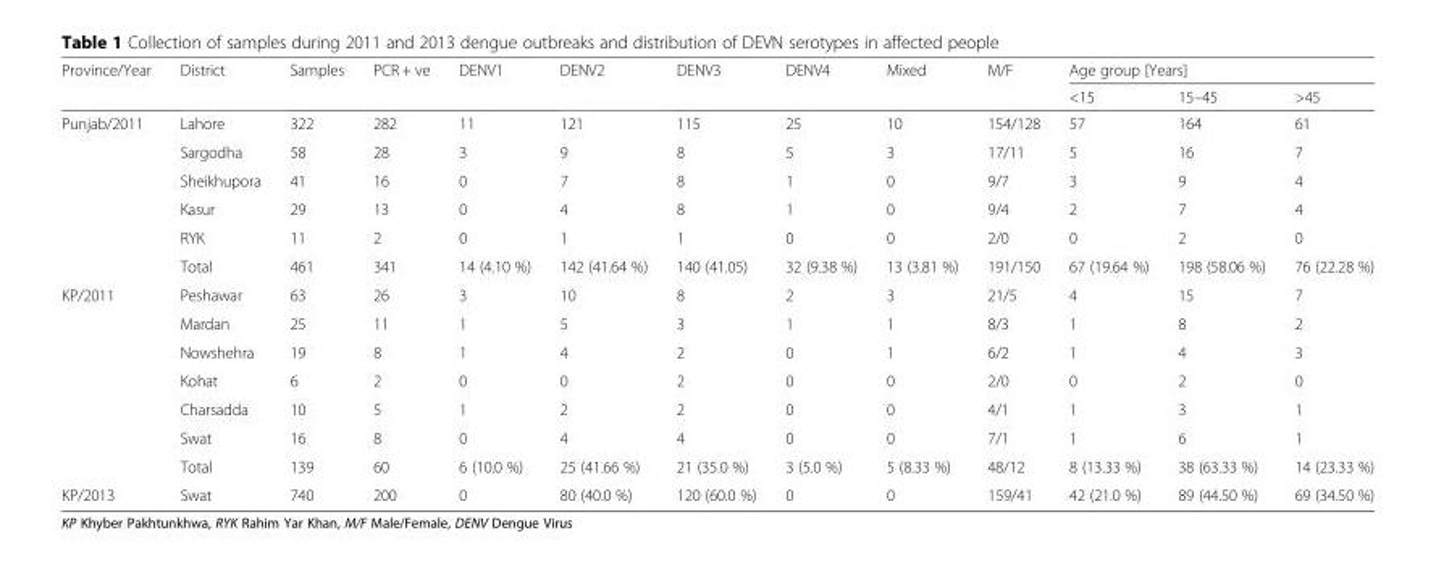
<table><thead><tr><td rowspan="2">Province/Year</td><td rowspan="2">District</td><td rowspan="2">Samples</td><td rowspan="2">PCR + ve</td><td rowspan="2">DENV1</td><td rowspan="2">DENV2</td><td rowspan="2">DENV3</td><td rowspan="2">DENV4</td><td rowspan="2">Mixed</td><td rowspan="2">M/F</td><td colspan="3">Age group [Years]</td></tr><tr><td>&lt;15</td><td>15–45</td><td>&gt;45</td></tr></thead><tbody><tr><td rowspan="6">Punjab/2011</td><td>Lahore</td><td>322</td><td>282</td><td>11</td><td>121</td><td>115</td><td>25</td><td>10</td><td>154/128</td><td>57</td><td>164</td><td>61</td></tr><tr><td>Sargodha</td><td>58</td><td>28</td><td>3</td><td>9</td><td>8</td><td>5</td><td>3</td><td>17/11</td><td>5</td><td>16</td><td>7</td></tr><tr><td>Sheikhupora</td><td>41</td><td>16</td><td>0</td><td>7</td><td>8</td><td>1</td><td>0</td><td>9/7</td><td>3</td><td>9</td><td>4</td></tr><tr><td>Kasur</td><td>29</td><td>13</td><td>0</td><td>4</td><td>8</td><td>1</td><td>0</td><td>9/4</td><td>2</td><td>7</td><td>4</td></tr><tr><td>RYK</td><td>11</td><td>2</td><td>0</td><td>1</td><td>1</td><td>0</td><td>0</td><td>2/0</td><td>0</td><td>2</td><td>0</td></tr><tr><td>Total</td><td>461</td><td>341</td><td>14 (4.10 %)</td><td>142 (41.64 %)</td><td>140 (41.05)</td><td>32 (9.38 %)</td><td>13 (3.81 %)</td><td>191/150</td><td>67 (19.64 %)</td><td>198 (58.06 %)</td><td>76 (22.28 %)</td></tr><tr><td rowspan="7">KP/2011</td><td>Peshawar</td><td>63</td><td>26</td><td>3</td><td>10</td><td>8</td><td>2</td><td>3</td><td>21/5</td><td>4</td><td>15</td><td>7</td></tr><tr><td>Mardan</td><td>25</td><td>11</td><td>1</td><td>5</td><td>3</td><td>1</td><td>1</td><td>8/3</td><td>1</td><td>8</td><td>2</td></tr><tr><td>Nowshehra</td><td>19</td><td>8</td><td>1</td><td>4</td><td>2</td><td>0</td><td>1</td><td>6/2</td><td>1</td><td>4</td><td>3</td></tr><tr><td>Kohat</td><td>6</td><td>2</td><td>0</td><td>0</td><td>2</td><td>0</td><td>0</td><td>2/0</td><td>0</td><td>2</td><td>0</td></tr><tr><td>Charsadda</td><td>10</td><td>5</td><td>1</td><td>2</td><td>2</td><td>0</td><td>0</td><td>4/1</td><td>1</td><td>3</td><td>1</td></tr><tr><td>Swat</td><td>16</td><td>8</td><td>0</td><td>4</td><td>4</td><td>0</td><td>0</td><td>7/1</td><td>1</td><td>6</td><td>1</td></tr><tr><td>Total</td><td>139</td><td>60</td><td>6 (10.0 %)</td><td>25 (41.66 %)</td><td>21 (35.0 %)</td><td>3 (5.0 %)</td><td>5 (8.33 %)</td><td>48/12</td><td>8 (13.33 %)</td><td>38 (63.33 %)</td><td>14 (23.33 %)</td></tr><tr><td>KP/2013</td><td>Swat</td><td>740</td><td>200</td><td>0</td><td>80 (40.0 %)</td><td>120 (60.0 %)</td><td>0</td><td>0</td><td>159/41</td><td>42 (21.0 %)</td><td>89 (44.50 %)</td><td>69 (34.50 %)</td></tr></tbody></table>